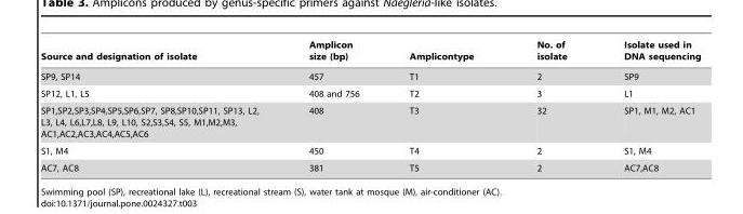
<table><thead><tr><td>Source and designation of isolate</td><td>Amplicon size (bp)</td><td>Amplicontype</td><td>No. of isolate</td><td>Isolate used in DNA sequencing</td></tr></thead><tbody><tr><td>SP9, SP14</td><td>457</td><td>T1</td><td>2</td><td>SP9</td></tr><tr><td>SP12, L1, L5</td><td>408 and 756</td><td>T2</td><td>3</td><td>L1</td></tr><tr><td>SP1,SP2,SP3,SP4,SP5,SP6,SP7, SP8,SP10,SP11, SP13, L2, L3, L4, L6,L7,L8, L9, L10, S2,S3,S4, S5, M1,M2,M3, AC1,AC2,AC3,AC4,AC5,AC6</td><td>408</td><td>T3</td><td>32</td><td>SP1, M1, M2, AC1</td></tr><tr><td>S1, M4</td><td>450</td><td>T4</td><td>2</td><td>S1, M4</td></tr><tr><td>AC7, AC8</td><td>381</td><td>T5</td><td>2</td><td>AC7,AC8</td></tr></tbody></table>